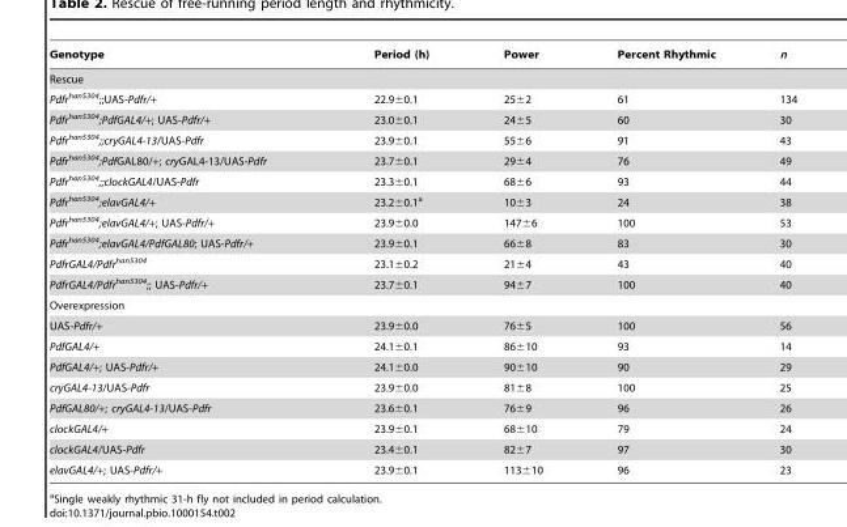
<table><thead><tr><td>Genotype</td><td>Period (h)</td><td>Power</td><td>Percent Rhythmic</td><td>n</td></tr></thead><tbody><tr><td colspan="5">Rescue</td></tr><tr><td>Pdfr<sup>han5304</sup>;;UAS-Pdfr/+</td><td>22.9±0.1</td><td>25±2</td><td>61</td><td>134</td></tr><tr><td>Pdfr<sup>han5304</sup>;PdfGAL4/+; UAS-Pdfr/+</td><td>23.0±0.1</td><td>24±5</td><td>60</td><td>30</td></tr><tr><td>Pdfr<sup>han5304</sup>;;cryGAL4-13/UAS-Pdfr</td><td>23.9±0.1</td><td>55±6</td><td>91</td><td>43</td></tr><tr><td>Pdfr<sup>han5304</sup>;PdfGAL80/+; cryGAL4-13/UAS-Pdfr</td><td>23.7±0.1</td><td>29±4</td><td>76</td><td>49</td></tr><tr><td>Pdfr<sup>han5304</sup>;;clockGAL4/UAS-Pdfr</td><td>23.3±0.1</td><td>68±6</td><td>93</td><td>44</td></tr><tr><td>Pdfr<sup>han5304</sup>;elavGAL4/+</td><td>23.2±0.1<sup>a</sup></td><td>10±3</td><td>24</td><td>38</td></tr><tr><td>Pdfr<sup>han5304</sup>;elavGAL4/+; UAS-Pdfr/+</td><td>23.9±0.0</td><td>147±6</td><td>100</td><td>53</td></tr><tr><td>Pdfr<sup>han5304</sup>;elavGAL4/PdfGAL80; UAS-Pdfr/+</td><td>23.9±0.1</td><td>66±8</td><td>83</td><td>30</td></tr><tr><td>PdfrGAL4/Pdfr<sup>han5304</sup></td><td>23.1±0.2</td><td>21±4</td><td>43</td><td>40</td></tr><tr><td>PdfrGAL4/Pdfr<sup>han5304</sup>;; UAS-Pdfr/+</td><td>23.7±0.1</td><td>94±7</td><td>100</td><td>40</td></tr><tr><td colspan="5">Overexpression</td></tr><tr><td>UAS-Pdfr/+</td><td>23.9±0.0</td><td>76±5</td><td>100</td><td>56</td></tr><tr><td>PdfGAL4/+</td><td>24.1±0.1</td><td>86±10</td><td>93</td><td>14</td></tr><tr><td>PdfGAL4/+; UAS-Pdfr/+</td><td>24.1±0.0</td><td>90±10</td><td>90</td><td>29</td></tr><tr><td>cryGAL4-13/UAS-Pdfr</td><td>23.9±0.0</td><td>81±8</td><td>100</td><td>25</td></tr><tr><td>PdfGAL80/+; cryGAL4-13/UAS-Pdfr</td><td>23.6±0.1</td><td>76±9</td><td>96</td><td>26</td></tr><tr><td>clockGAL4/+</td><td>23.9±0.1</td><td>68±10</td><td>79</td><td>24</td></tr><tr><td>clockGAL4/UAS-Pdfr</td><td>23.4±0.1</td><td>82±7</td><td>97</td><td>30</td></tr><tr><td>elavGAL4/+; UAS-Pdfr/+</td><td>23.9±0.1</td><td>113±10</td><td>96</td><td>23</td></tr></tbody></table>